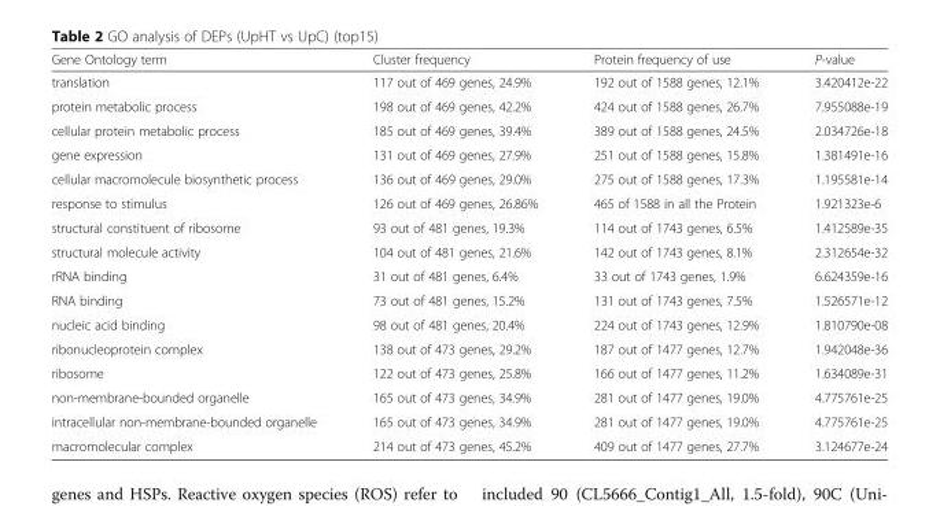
<table><thead><tr><td>Gene Ontology term</td><td>Cluster frequency</td><td>Protein frequency of use</td><td>P-value</td></tr></thead><tbody><tr><td>translation</td><td>117 out of 469 genes, 24.9%</td><td>192 out of 1588 genes, 12.1%</td><td>3.420412e-22</td></tr><tr><td>protein metabolic process</td><td>198 out of 469 genes, 42.2%</td><td>424 out of 1588 genes, 26.7%</td><td>7.955088e-19</td></tr><tr><td>cellular protein metabolic process</td><td>185 out of 469 genes, 39.4%</td><td>389 out of 1588 genes, 24.5%</td><td>2.034726e-18</td></tr><tr><td>gene expression</td><td>131 out of 469 genes, 27.9%</td><td>251 out of 1588 genes, 15.8%</td><td>1.381491e-16</td></tr><tr><td>cellular macromolecule biosynthetic process</td><td>136 out of 469 genes, 29.0%</td><td>275 out of 1588 genes, 17.3%</td><td>1.195581e-14</td></tr><tr><td>response to stimulus</td><td>126 out of 469 genes, 26.86%</td><td>465 of 1588 in all the Protein</td><td>1.921323e-6</td></tr><tr><td>structural constituent of ribosome</td><td>93 out of 481 genes, 19.3%</td><td>114 out of 1743 genes, 6.5%</td><td>1.412589e-35</td></tr><tr><td>structural molecule activity</td><td>104 out of 481 genes, 21.6%</td><td>142 out of 1743 genes, 8.1%</td><td>2.312654e-32</td></tr><tr><td>rRNA binding</td><td>31 out of 481 genes, 6.4%</td><td>33 out of 1743 genes, 1.9%</td><td>6.624359e-16</td></tr><tr><td>RNA binding</td><td>73 out of 481 genes, 15.2%</td><td>131 out of 1743 genes, 7.5%</td><td>1.526571e-12</td></tr><tr><td>nucleic acid binding</td><td>98 out of 481 genes, 20.4%</td><td>224 out of 1743 genes, 12.9%</td><td>1.810790e-08</td></tr><tr><td>ribonucleoprotein complex</td><td>138 out of 473 genes, 29.2%</td><td>187 out of 1477 genes, 12.7%</td><td>1.942048e-36</td></tr><tr><td>ribosome</td><td>122 out of 473 genes, 25.8%</td><td>166 out of 1477 genes, 11.2%</td><td>1.634089e-31</td></tr><tr><td>non-membrane-bounded organelle</td><td>165 out of 473 genes, 34.9%</td><td>281 out of 1477 genes, 19.0%</td><td>4.775761e-25</td></tr><tr><td>intracellular non-membrane-bounded organelle</td><td>165 out of 473 genes, 34.9%</td><td>281 out of 1477 genes, 19.0%</td><td>4.775761e-25</td></tr><tr><td>macromolecular complex</td><td>214 out of 473 genes, 45.2%</td><td>409 out of 1477 genes, 27.7%</td><td>3.124677e-24</td></tr></tbody></table>